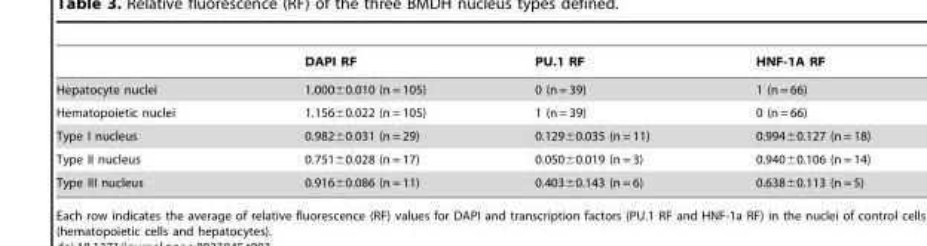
<table><thead><tr><td></td><td>DAPI RF</td><td>PU.1 RF</td><td>HNF-1A RF</td></tr></thead><tbody><tr><td>Hepatocyte nuclei</td><td>1.000±0.010 (n = 105)</td><td>0 (n = 39)</td><td>1 (n = 66)</td></tr><tr><td>Hematopoietic nuclei</td><td>1.156±0.022 (n = 105)</td><td>1 (n = 39)</td><td>0 (n = 66)</td></tr><tr><td>Type I nucleus</td><td>0.982±0.031 (n = 29)</td><td>0.129±0.035 (n = 11)</td><td>0.994±0.127 (n = 18)</td></tr><tr><td>Type II nucleus</td><td>0.751±0.028 (n = 17)</td><td>0.050±0.019 (n = 3)</td><td>0.940±0.106 (n = 14)</td></tr><tr><td>Type III nucleus</td><td>0.916±0.086 (n = 11)</td><td>0.403±0.143 (n = 6)</td><td>0.638±0.113 (n = 5)</td></tr></tbody></table>